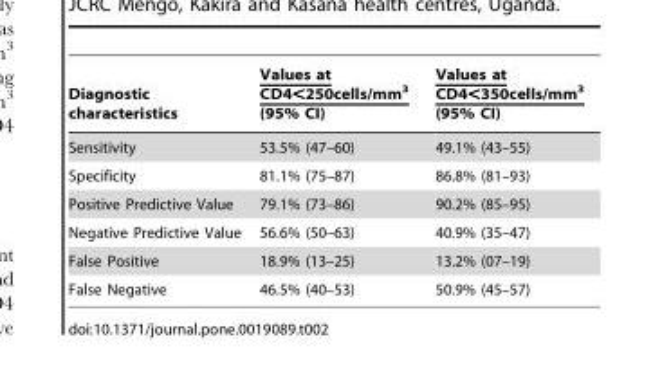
<table><thead><tr><td>Diagnostic characteristics</td><td>Values at CD4&lt;250cells/mm<sup>3</sup> (95% CI)</td><td>Values at CD4&lt;350cells/mm<sup>3</sup> (95% CI)</td></tr></thead><tbody><tr><td>Sensitivity</td><td>53.5% (47–60)</td><td>49.1% (43–55)</td></tr><tr><td>Specificity</td><td>81.1% (75–87)</td><td>86.8% (81–93)</td></tr><tr><td>Positive Predictive Value</td><td>79.1% (73–86)</td><td>90.2% (85–95)</td></tr><tr><td>Negative Predictive Value</td><td>56.6% (50–63)</td><td>40.9% (35–47)</td></tr><tr><td>False Positive</td><td>18.9% (13–25)</td><td>13.2% (07–19)</td></tr><tr><td>False Negative</td><td>46.5% (40–53)</td><td>50.9% (45–57)</td></tr></tbody></table>